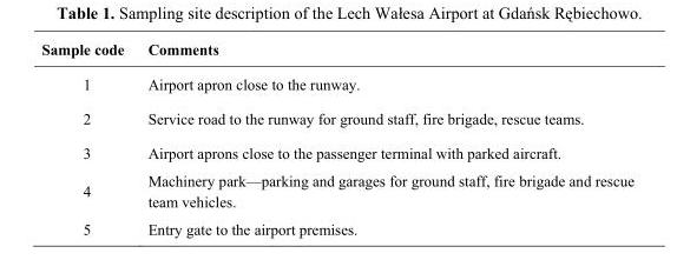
<table><thead><tr><td>Sample code</td><td>Comments</td></tr></thead><tbody><tr><td>1</td><td>Airport apron close to the runway.</td></tr><tr><td>2</td><td>Service road to the runway for ground staff, fire brigade, rescue teams.</td></tr><tr><td>3</td><td>Airport aprons close to the passenger terminal with parked aircraft.</td></tr><tr><td>4</td><td>Machinery park—parking and garages for ground staff, fire brigade and rescue team vehicles.</td></tr><tr><td>5</td><td>Entry gate to the airport premises.</td></tr></tbody></table>